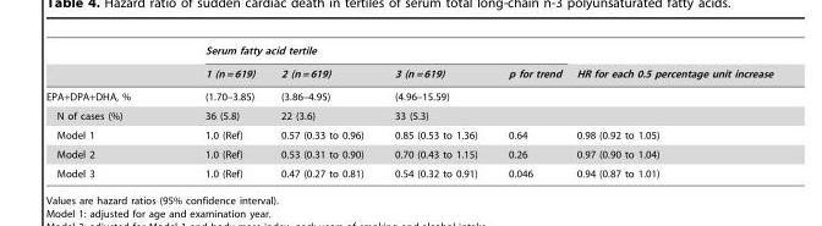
<table><thead><tr><td rowspan="2"></td><td colspan="4">Serum fatty acid tertile</td><td rowspan="2">HR for each 0.5 percentage unit increase</td></tr><tr><td>1 (n = 619)</td><td>2 (n = 619)</td><td>3 (n = 619)</td><td>p for trend</td></tr></thead><tbody><tr><td>EPA+DPA+DHA, %</td><td>(1.70–3.85)</td><td>(3.86–4.95)</td><td>(4.96–15.59)</td><td></td><td></td></tr><tr><td>N of cases (%)</td><td>36 (5.8)</td><td>22 (3.6)</td><td>33 (5.3)</td><td></td><td></td></tr><tr><td>Model 1</td><td>1.0 (Ref)</td><td>0.57 (0.33 to 0.96)</td><td>0.85 (0.53 to 1.36)</td><td>0.64</td><td>0.98 (0.92 to 1.05)</td></tr><tr><td>Model 2</td><td>1.0 (Ref)</td><td>0.53 (0.31 to 0.90)</td><td>0.70 (0.43 to 1.15)</td><td>0.26</td><td>0.97 (0.90 to 1.04)</td></tr><tr><td>Model 3</td><td>1.0 (Ref)</td><td>0.47 (0.27 to 0.81)</td><td>0.54 (0.32 to 0.91)</td><td>0.046</td><td>0.94 (0.87 to 1.01)</td></tr></tbody></table>